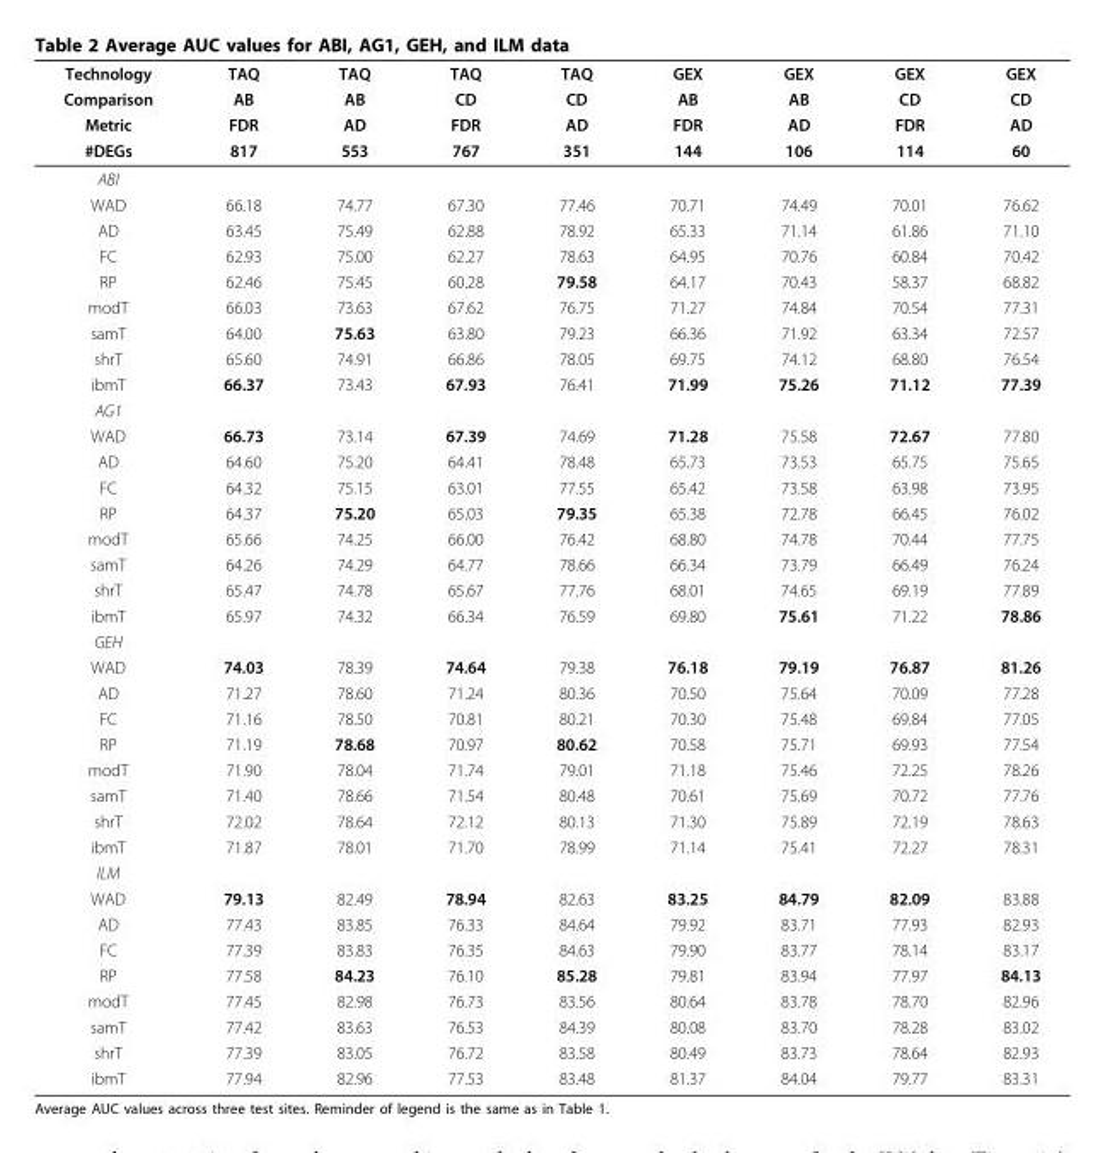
<table><thead><tr><td rowspan="4">Technology Comparison Metric #DEGs</td><td rowspan="4">TAQ AB FDR 817</td><td rowspan="4">TAQ AB AD 553</td><td rowspan="4">TAQ CD FDR 767</td><td rowspan="4">TAQ CD AD 351</td><td rowspan="4">GEX AB FDR 144</td><td rowspan="4">GEX AB AD 106</td><td rowspan="4">GEX CD FDR 114</td><td rowspan="4">GEX CD AD 60</td></tr><tr></tr><tr></tr><tr></tr></thead><tbody><tr><td colspan="9">ABI</td></tr><tr><td>WAD</td><td>66.18</td><td>74.77</td><td>67.30</td><td>77.46</td><td>70.71</td><td>74.49</td><td>70.01</td><td>76.62</td></tr><tr><td>AD</td><td>63.45</td><td>75.49</td><td>62.88</td><td>78.92</td><td>65.33</td><td>71.14</td><td>61.86</td><td>71.10</td></tr><tr><td>FC</td><td>62.93</td><td>75.00</td><td>62.27</td><td>78.63</td><td>64.95</td><td>70.76</td><td>60.84</td><td>70.42</td></tr><tr><td>RP</td><td>62.46</td><td>75.45</td><td>60.28</td><td>79.58</td><td>64.17</td><td>70.43</td><td>58.37</td><td>68.82</td></tr><tr><td>modT</td><td>66.03</td><td>73.63</td><td>67.62</td><td>76.75</td><td>71.27</td><td>74.84</td><td>70.54</td><td>77.31</td></tr><tr><td>samT</td><td>64.00</td><td>75.63</td><td>63.80</td><td>79.23</td><td>66.36</td><td>71.92</td><td>63.34</td><td>72.57</td></tr><tr><td>shrT</td><td>65.60</td><td>74.91</td><td>66.86</td><td>78.05</td><td>69.75</td><td>74.12</td><td>68.80</td><td>76.54</td></tr><tr><td>ibmT</td><td>66.37</td><td>73.43</td><td>67.93</td><td>76.41</td><td>71.99</td><td>75.26</td><td>71.12</td><td>77.39</td></tr><tr><td colspan="9">AG1</td></tr><tr><td>WAD</td><td>66.73</td><td>73.14</td><td>67.39</td><td>74.69</td><td>71.28</td><td>75.58</td><td>72.67</td><td>77.80</td></tr><tr><td>AD</td><td>64.60</td><td>75.20</td><td>64.41</td><td>78.48</td><td>65.73</td><td>73.53</td><td>65.75</td><td>75.65</td></tr><tr><td>FC</td><td>64.32</td><td>75.15</td><td>63.01</td><td>77.55</td><td>65.42</td><td>73.58</td><td>63.98</td><td>73.95</td></tr><tr><td>RP</td><td>64.37</td><td>75.20</td><td>65.03</td><td>79.35</td><td>65.38</td><td>72.78</td><td>66.45</td><td>76.02</td></tr><tr><td>modT</td><td>65.66</td><td>74.25</td><td>66.00</td><td>76.42</td><td>68.80</td><td>74.78</td><td>70.44</td><td>77.75</td></tr><tr><td>samT</td><td>64.26</td><td>74.29</td><td>64.77</td><td>78.66</td><td>66.34</td><td>73.79</td><td>66.49</td><td>76.24</td></tr><tr><td>shrT</td><td>65.47</td><td>74.78</td><td>65.67</td><td>77.76</td><td>68.01</td><td>74.65</td><td>69.19</td><td>77.89</td></tr><tr><td>ibmT</td><td>65.97</td><td>74.32</td><td>66.34</td><td>76.59</td><td>69.80</td><td>75.61</td><td>71.22</td><td>78.86</td></tr><tr><td colspan="9">GEH</td></tr><tr><td>WAD</td><td>74.03</td><td>78.39</td><td>74.64</td><td>79.38</td><td>76.18</td><td>79.19</td><td>76.87</td><td>81.26</td></tr><tr><td>AD</td><td>71.27</td><td>78.60</td><td>71.24</td><td>80.36</td><td>70.50</td><td>75.64</td><td>70.09</td><td>77.28</td></tr><tr><td>FC</td><td>71.16</td><td>78.50</td><td>70.81</td><td>80.21</td><td>70.30</td><td>75.48</td><td>69.84</td><td>77.05</td></tr><tr><td>RP</td><td>71.19</td><td>78.68</td><td>70.97</td><td>80.62</td><td>70.58</td><td>75.71</td><td>69.93</td><td>77.54</td></tr><tr><td>modT</td><td>71.90</td><td>78.04</td><td>71.74</td><td>79.01</td><td>71.18</td><td>75.46</td><td>72.25</td><td>78.26</td></tr><tr><td>samT</td><td>71.40</td><td>78.66</td><td>71.54</td><td>80.48</td><td>70.61</td><td>75.69</td><td>70.72</td><td>77.76</td></tr><tr><td>shrT</td><td>72.02</td><td>78.64</td><td>72.12</td><td>80.13</td><td>71.30</td><td>75.89</td><td>72.19</td><td>78.63</td></tr><tr><td>ibmT</td><td>71.87</td><td>78.01</td><td>71.70</td><td>78.99</td><td>71.14</td><td>75.41</td><td>72.27</td><td>78.31</td></tr><tr><td colspan="9">ILM</td></tr><tr><td>WAD</td><td>79.13</td><td>82.49</td><td>78.94</td><td>82.63</td><td>83.25</td><td>84.79</td><td>82.09</td><td>83.88</td></tr><tr><td>AD</td><td>77.43</td><td>83.85</td><td>76.33</td><td>84.64</td><td>79.92</td><td>83.71</td><td>77.93</td><td>82.93</td></tr><tr><td>FC</td><td>77.39</td><td>83.83</td><td>76.35</td><td>84.63</td><td>79.90</td><td>83.77</td><td>78.14</td><td>83.17</td></tr><tr><td>RP</td><td>77.58</td><td>84.23</td><td>76.10</td><td>85.28</td><td>79.81</td><td>83.94</td><td>77.97</td><td>84.13</td></tr><tr><td>modT</td><td>77.45</td><td>82.98</td><td>76.73</td><td>83.56</td><td>80.64</td><td>83.78</td><td>78.70</td><td>82.96</td></tr><tr><td>samT</td><td>77.42</td><td>83.63</td><td>76.53</td><td>84.39</td><td>80.08</td><td>83.70</td><td>78.28</td><td>83.02</td></tr><tr><td>shrT</td><td>77.39</td><td>83.05</td><td>76.72</td><td>83.58</td><td>80.49</td><td>83.73</td><td>78.64</td><td>82.93</td></tr><tr><td>ibmT</td><td>77.94</td><td>82.96</td><td>77.53</td><td>83.48</td><td>81.37</td><td>84.04</td><td>79.77</td><td>83.31</td></tr></tbody></table>